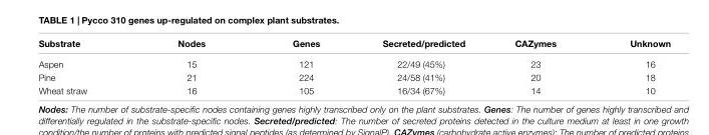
<table><thead><tr><td>Substrate</td><td>Nodes</td><td>Genes</td><td>Secreted/predicted</td><td>CAZymes</td><td>Unknown</td></tr></thead><tbody><tr><td>Aspen</td><td>15</td><td>121</td><td>22/49 (45%)</td><td>23</td><td>16</td></tr><tr><td>Pine</td><td>21</td><td>224</td><td>24/58 (41%)</td><td>20</td><td>18</td></tr><tr><td>Wheat straw</td><td>16</td><td>105</td><td>16/34 (67%)</td><td>14</td><td>10</td></tr></tbody></table>